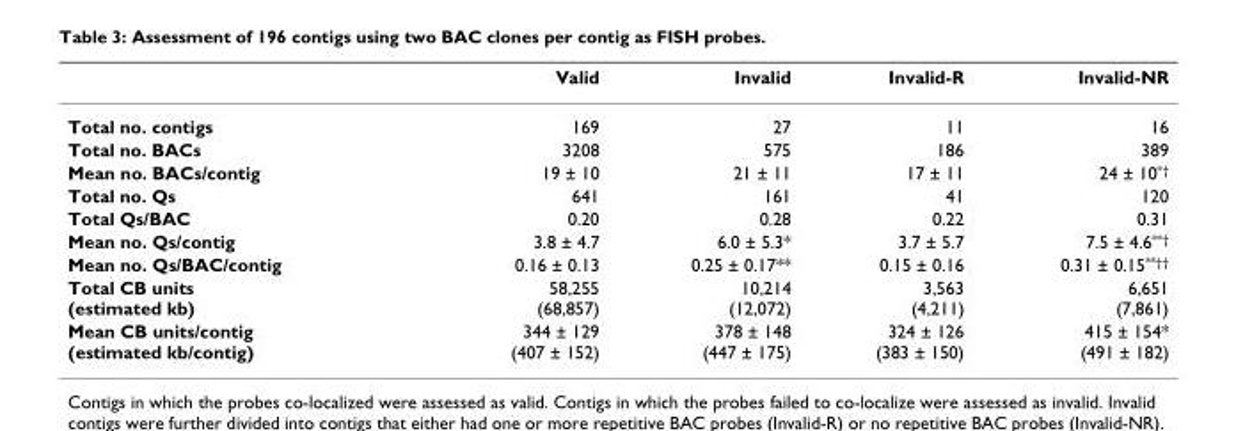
<table><thead><tr><td></td><td>Valid</td><td>Invalid</td><td>Invalid-R</td><td>Invalid-NR</td></tr></thead><tbody><tr><td>Total no. contigs</td><td>169</td><td>27</td><td>11</td><td>16</td></tr><tr><td>Total no. BACs</td><td>3208</td><td>575</td><td>186</td><td>389</td></tr><tr><td>Mean no. BACs/contig</td><td>19 ± 10</td><td>21 ± 11</td><td>17 ± 11</td><td>24 ± 10<sup>*†</sup></td></tr><tr><td>Total no. Qs</td><td>641</td><td>161</td><td>41</td><td>120</td></tr><tr><td>Total Qs/BAC</td><td>0.20</td><td>0.28</td><td>0.22</td><td>0.31</td></tr><tr><td>Mean no. Qs/contig</td><td>3.8 ± 4.7</td><td>6.0 ± 5.3*</td><td>3.7 ± 5.7</td><td>7.5 ± 4.6<sup>**†</sup></td></tr><tr><td>Mean no. Qs/BAC/contig</td><td>0.16 ± 0.13</td><td>0.25 ± 0.17**</td><td>0.15 ± 0.16</td><td>0.31 ± 0.15<sup>**††</sup></td></tr><tr><td>Total CB units (estimated kb)</td><td>58,255 (68,857)</td><td>10,214 (12,072)</td><td>3,563 (4,211)</td><td>6,651 (7,861)</td></tr><tr><td>Mean CB units/contig (estimated kb/contig)</td><td>344 ± 129 (407 ± 152)</td><td>378 ± 148 (447 ± 175)</td><td>324 ± 126 (383 ± 150)</td><td>415 ± 154* (491 ± 182)</td></tr></tbody></table>